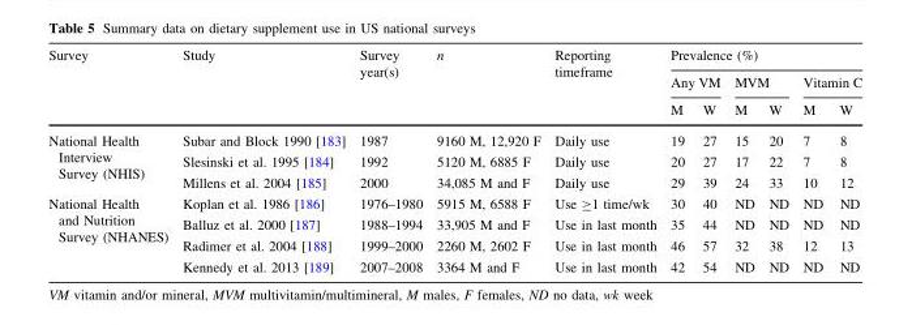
<table><thead><tr><td rowspan="3">Survey</td><td rowspan="3">Study</td><td rowspan="3">Survey year(s)</td><td rowspan="3">n</td><td rowspan="3">Reporting timeframe</td><td colspan="6">Prevalence (%)</td></tr><tr><td colspan="2">Any VM</td><td colspan="2">MVM</td><td colspan="2">Vitamin C</td></tr><tr><td>M</td><td>W</td><td>M</td><td>W</td><td>M</td><td>W</td></tr></thead><tbody><tr><td rowspan="3">National Health Interview Survey (NHIS)</td><td>Subar and Block 1990 [183]</td><td>1987</td><td>9160 M, 12,920 F</td><td>Daily use</td><td>19</td><td>27</td><td>15</td><td>20</td><td>7</td><td>8</td></tr><tr><td>Slesinski et al. 1995 [184]</td><td>1992</td><td>5120 M, 6885 F</td><td>Daily use</td><td>20</td><td>27</td><td>17</td><td>22</td><td>7</td><td>8</td></tr><tr><td>Millens et al. 2004 [185]</td><td>2000</td><td>34,085 M and F</td><td>Daily use</td><td>29</td><td>39</td><td>24</td><td>33</td><td>10</td><td>12</td></tr><tr><td rowspan="4">National Health and Nutrition Survey (NHANES)</td><td>Koplan et al. 1986 [186]</td><td>1976–1980</td><td>5915 M, 6588 F</td><td>Use ≥1 time/wk</td><td>30</td><td>40</td><td>ND</td><td>ND</td><td>ND</td><td>ND</td></tr><tr><td>Balluz et al. 2000 [187]</td><td>1988–1994</td><td>33,905 M and F</td><td>Use in last month</td><td>35</td><td>44</td><td>ND</td><td>ND</td><td>ND</td><td>ND</td></tr><tr><td>Radimer et al. 2004 [188]</td><td>1999–2000</td><td>2260 M, 2602 F</td><td>Use in last month</td><td>46</td><td>57</td><td>32</td><td>38</td><td>12</td><td>13</td></tr><tr><td>Kennedy et al. 2013 [189]</td><td>2007–2008</td><td>3364 M and F</td><td>Use in last month</td><td>42</td><td>54</td><td>ND</td><td>ND</td><td>ND</td><td>ND</td></tr></tbody></table>